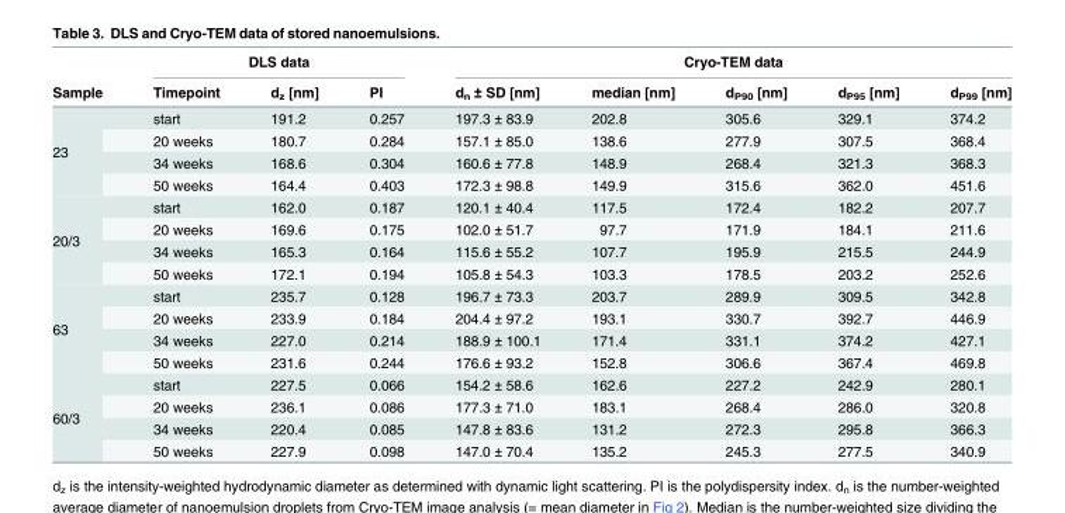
<table><thead><tr><td rowspan="2">Sample</td><td colspan="3">DLS data</td><td colspan="5">Cryo-TEM data</td></tr><tr><td>Timepoint</td><td>d<sub>z</sub> [nm]</td><td>PI</td><td>d<sub>n</sub> ± SD [nm]</td><td>median [nm]</td><td>d<sub>P90</sub> [nm]</td><td>d<sub>P95</sub> [nm]</td><td>d<sub>P99</sub> [nm]</td></tr></thead><tbody><tr><td rowspan="4">23</td><td>start</td><td>191.2</td><td>0.257</td><td>197.3 ± 83.9</td><td>202.8</td><td>305.6</td><td>329.1</td><td>374.2</td></tr><tr><td>20 weeks</td><td>180.7</td><td>0.284</td><td>157.1 ± 85.0</td><td>138.6</td><td>277.9</td><td>307.5</td><td>368.4</td></tr><tr><td>34 weeks</td><td>168.6</td><td>0.304</td><td>160.6 ± 77.8</td><td>148.9</td><td>268.4</td><td>321.3</td><td>368.3</td></tr><tr><td>50 weeks</td><td>164.4</td><td>0.403</td><td>172.3 ± 98.8</td><td>149.9</td><td>315.6</td><td>362.0</td><td>451.6</td></tr><tr><td rowspan="4">20/3</td><td>start</td><td>162.0</td><td>0.187</td><td>120.1 ± 40.4</td><td>117.5</td><td>172.4</td><td>182.2</td><td>207.7</td></tr><tr><td>20 weeks</td><td>169.6</td><td>0.175</td><td>102.0 ± 51.7</td><td>97.7</td><td>171.9</td><td>184.1</td><td>211.6</td></tr><tr><td>34 weeks</td><td>165.3</td><td>0.164</td><td>115.6 ± 55.2</td><td>107.7</td><td>195.9</td><td>215.5</td><td>244.9</td></tr><tr><td>50 weeks</td><td>172.1</td><td>0.194</td><td>105.8 ± 54.3</td><td>103.3</td><td>178.5</td><td>203.2</td><td>252.6</td></tr><tr><td rowspan="4">63</td><td>start</td><td>235.7</td><td>0.128</td><td>196.7 ± 73.3</td><td>203.7</td><td>289.9</td><td>309.5</td><td>342.8</td></tr><tr><td>20 weeks</td><td>233.9</td><td>0.184</td><td>204.4 ± 97.2</td><td>193.1</td><td>330.7</td><td>392.7</td><td>446.9</td></tr><tr><td>34 weeks</td><td>227.0</td><td>0.214</td><td>188.9 ± 100.1</td><td>171.4</td><td>331.1</td><td>374.2</td><td>427.1</td></tr><tr><td>50 weeks</td><td>231.6</td><td>0.244</td><td>176.6 ± 93.2</td><td>152.8</td><td>306.6</td><td>367.4</td><td>469.8</td></tr><tr><td rowspan="4">60/3</td><td>start</td><td>227.5</td><td>0.066</td><td>154.2 ± 58.6</td><td>162.6</td><td>227.2</td><td>242.9</td><td>280.1</td></tr><tr><td>20 weeks</td><td>236.1</td><td>0.086</td><td>177.3 ± 71.0</td><td>183.1</td><td>268.4</td><td>286.0</td><td>320.8</td></tr><tr><td>34 weeks</td><td>220.4</td><td>0.085</td><td>147.8 ± 83.6</td><td>131.2</td><td>272.3</td><td>295.8</td><td>366.3</td></tr><tr><td>50 weeks</td><td>227.9</td><td>0.098</td><td>147.0 ± 70.4</td><td>135.2</td><td>245.3</td><td>277.5</td><td>340.9</td></tr></tbody></table>